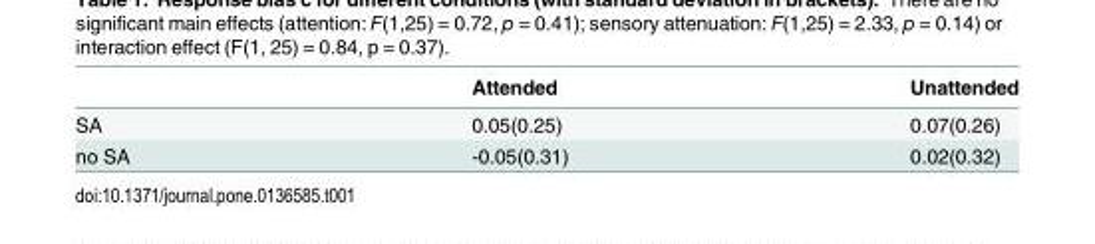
<table><thead><tr><td></td><td>Attended</td><td>Unattended</td></tr></thead><tbody><tr><td>SA</td><td>0.05(0.25)</td><td>0.07(0.26)</td></tr><tr><td>no SA</td><td>-0.05(0.31)</td><td>0.02(0.32)</td></tr></tbody></table>